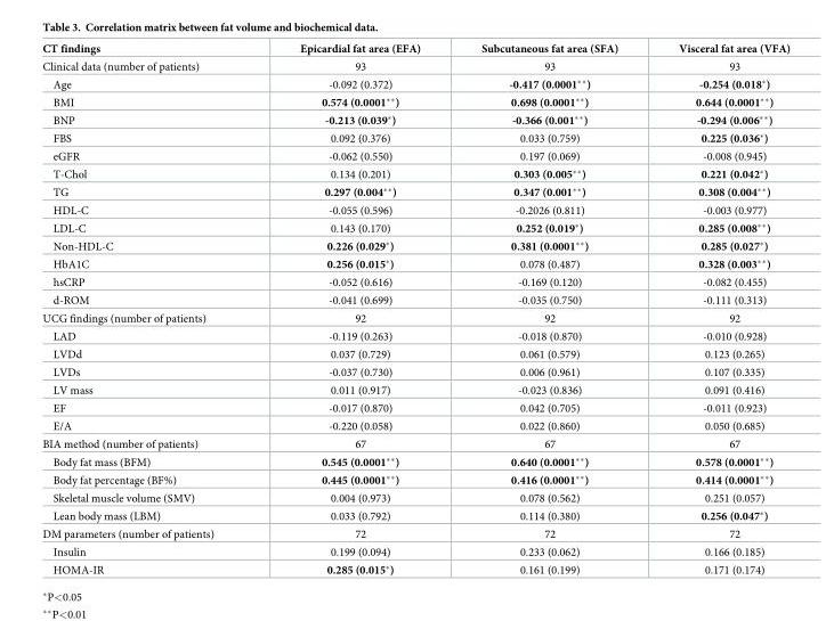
<table><thead><tr><td>CT findings</td><td>Epicardial fat area (EFA)</td><td>Subcutaneous fat area (SFA)</td><td>Visceral fat area (VFA)</td></tr></thead><tbody><tr><td>Clinical data (number of patients)</td><td>93</td><td>93</td><td>93</td></tr><tr><td>Age</td><td>-0.092 (0.372)</td><td>-0.417 (0.0001**)</td><td>-0.254 (0.018*)</td></tr><tr><td>BMI</td><td>0.574 (0.0001**)</td><td>0.698 (0.0001**)</td><td>0.644 (0.0001**)</td></tr><tr><td>BNP</td><td>-0.213 (0.039*)</td><td>-0.366 (0.001**)</td><td>-0.294 (0.006**)</td></tr><tr><td>FBS</td><td>0.092 (0.376)</td><td>0.033 (0.759)</td><td>0.225 (0.036*)</td></tr><tr><td>eGFR</td><td>-0.062 (0.550)</td><td>0.197 (0.069)</td><td>-0.008 (0.945)</td></tr><tr><td>T-Chol</td><td>0.134 (0.201)</td><td>0.303 (0.005**)</td><td>0.221 (0.042*)</td></tr><tr><td>TG</td><td>0.297 (0.004**)</td><td>0.347 (0.001**)</td><td>0.308 (0.004**)</td></tr><tr><td>HDL-C</td><td>-0.055 (0.596)</td><td>-0.2026 (0.811)</td><td>-0.003 (0.977)</td></tr><tr><td>LDL-C</td><td>0.143 (0.170)</td><td>0.252 (0.019*)</td><td>0.285 (0.008**)</td></tr><tr><td>Non-HDL-C</td><td>0.226 (0.029*)</td><td>0.381 (0.0001**)</td><td>0.285 (0.027*)</td></tr><tr><td>HbA1C</td><td>0.256 (0.015*)</td><td>0.078 (0.487)</td><td>0.328 (0.003**)</td></tr><tr><td>hsCRP</td><td>-0.052 (0.616)</td><td>-0.169 (0.120)</td><td>-0.082 (0.455)</td></tr><tr><td>d-ROM</td><td>-0.041 (0.699)</td><td>-0.035 (0.750)</td><td>-0.111 (0.313)</td></tr><tr><td>UCG findings (number of patients)</td><td>92</td><td>92</td><td>92</td></tr><tr><td>LAD</td><td>-0.119 (0.263)</td><td>-0.018 (0.870)</td><td>-0.010 (0.928)</td></tr><tr><td>LVDd</td><td>0.037 (0.729)</td><td>0.061 (0.579)</td><td>0.123 (0.265)</td></tr><tr><td>LVDs</td><td>-0.037 (0.730)</td><td>0.006 (0.961)</td><td>0.107 (0.335)</td></tr><tr><td>LV mass</td><td>0.011 (0.917)</td><td>-0.023 (0.836)</td><td>0.091 (0.416)</td></tr><tr><td>EF</td><td>-0.017 (0.870)</td><td>0.042 (0.705)</td><td>-0.011 (0.923)</td></tr><tr><td>E/A</td><td>-0.220 (0.058)</td><td>0.022 (0.860)</td><td>0.050 (0.685)</td></tr><tr><td>BIA method (number of patients)</td><td>67</td><td>67</td><td>67</td></tr><tr><td>Body fat mass (BFM)</td><td>0.545 (0.0001**)</td><td>0.640 (0.0001**)</td><td>0.578 (0.0001**)</td></tr><tr><td>Body fat percentage (BF%)</td><td>0.445 (0.0001**)</td><td>0.416 (0.0001**)</td><td>0.414 (0.0001**)</td></tr><tr><td>Skeletal muscle volume (SMV)</td><td>0.004 (0.973)</td><td>0.078 (0.562)</td><td>0.251 (0.057)</td></tr><tr><td>Lean body mass (LBM)</td><td>0.033 (0.792)</td><td>0.114 (0.380)</td><td>0.256 (0.047*)</td></tr><tr><td>DM parameters (number of patients)</td><td>72</td><td>72</td><td>72</td></tr><tr><td>Insulin</td><td>0.199 (0.094)</td><td>0.233 (0.062)</td><td>0.166 (0.185)</td></tr><tr><td>HOMA-IR</td><td>0.285 (0.015*)</td><td>0.161 (0.199)</td><td>0.171 (0.174)</td></tr></tbody></table>